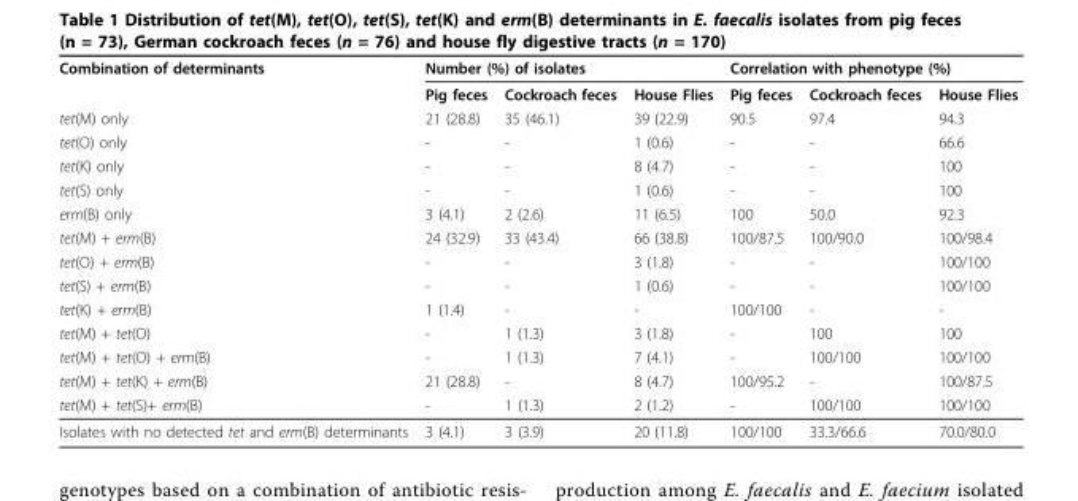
<table><thead><tr><td rowspan="15">Combination of determinants tet(M) only tet(O) only tet(K) only tet(S) only erm(B) only tet(M) + erm(B) tet(O) + erm(B) tet(S) + erm(B) tet(K) + erm(B) tet(M) + tet(O) tet(M) + tet(O) + erm(B) tet(M) + tet(K) + erm(B) tet(M) + tet(S)+ erm(B)</td><td colspan="3">Number (%) of isolates</td><td colspan="3">Correlation with phenotype (%)</td></tr><tr><td rowspan="14">Pig feces 21 (28.8) - - - 3 (4.1) 24 (32.9) - - 1 (1.4) - - 21 (28.8) -</td><td rowspan="14">Cockroach feces 35 (46.1) - - - 2 (2.6) 33 (43.4) - - - 1 (1.3) 1 (1.3) - 1 (1.3)</td><td rowspan="14">House Flies 39 (22.9) 1 (0.6) 8 (4.7) 1 (0.6) 11 (6.5) 66 (38.8) 3 (1.8) 1 (0.6) - 3 (1.8) 7 (4.1) 8 (4.7) 2 (1.2)</td><td rowspan="14">Pig feces 90.5 - - - 100 100/87.5 - - 100/100 - - 100/95.2 -</td><td rowspan="14">Cockroach feces 97.4 - - - 50.0 100/90.0 - - - 100 100/100 - 100/100</td><td rowspan="14">House Flies 94.3 66.6 100 100 92.3 100/98.4 100/100 100/100 - 100 100/100 100/87.5 100/100</td></tr><tr></tr><tr></tr><tr></tr><tr></tr><tr></tr><tr></tr><tr></tr><tr></tr><tr></tr><tr></tr><tr></tr><tr></tr><tr></tr></thead><tbody><tr><td>Isolates with no detected tet and erm(B) determinants</td><td>3 (4.1)</td><td>3 (3.9)</td><td>20 (11.8)</td><td>100/100</td><td>33.3/66.6</td><td>70.0/80.0</td></tr></tbody></table>